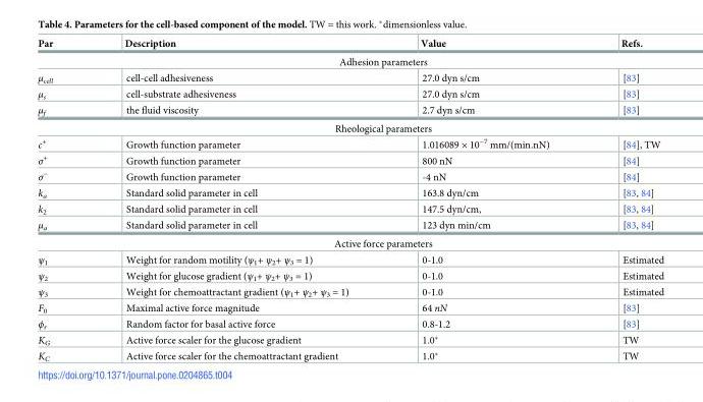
<table><thead><tr><td>Par</td><td>Description</td><td>Value</td><td>Refs.</td></tr></thead><tbody><tr><td colspan="4">Adhesion parameters</td></tr><tr><td>μ<sub>cell</sub></td><td>cell-cell adhesiveness</td><td>27.0 dyn s/cm</td><td>[83]</td></tr><tr><td>μ<sub>s</sub></td><td>cell-substrate adhesiveness</td><td>27.0 dyn s/cm</td><td>[83]</td></tr><tr><td>μ<sub>f</sub></td><td>the fluid viscosity</td><td>2.7 dyn s/cm</td><td>[83]</td></tr><tr><td colspan="4">Rheological parameters</td></tr><tr><td>c<sup>+</sup></td><td>Growth function parameter</td><td>1.016089 × 10<sup>−7</sup> mm/(min.nN)</td><td>[84], TW</td></tr><tr><td>σ<sup>+</sup></td><td>Growth function parameter</td><td>800 nN</td><td>[84]</td></tr><tr><td>σ<sup>−</sup></td><td>Growth function parameter</td><td>-4 nN</td><td>[84]</td></tr><tr><td>k<sub>a</sub></td><td>Standard solid parameter in cell</td><td>163.8 dyn/cm</td><td>[83, 84]</td></tr><tr><td>k<sub>2</sub></td><td>Standard solid parameter in cell</td><td>147.5 dyn/cm,</td><td>[83, 84]</td></tr><tr><td>μ<sub>a</sub></td><td>Standard solid parameter in cell</td><td>123 dyn min/cm</td><td>[83, 84]</td></tr><tr><td colspan="4">Active force parameters</td></tr><tr><td>ψ<sub>1</sub></td><td>Weight for random motility (ψ<sub>1</sub>+ ψ<sub>2</sub>+ ψ<sub>3</sub> = 1)</td><td>0-1.0</td><td>Estimated</td></tr><tr><td>ψ<sub>2</sub></td><td>Weight for glucose gradient (ψ<sub>1</sub>+ ψ<sub>2</sub>+ ψ<sub>3</sub> = 1)</td><td>0-1.0</td><td>Estimated</td></tr><tr><td>ψ<sub>3</sub></td><td>Weight for chemoattractant gradient (ψ<sub>1</sub>+ ψ<sub>2</sub>+ ψ<sub>3</sub> = 1)</td><td>0-1.0</td><td>Estimated</td></tr><tr><td>F<sub>0</sub></td><td>Maximal active force magnitude</td><td>64 nN</td><td>[83]</td></tr><tr><td>ϕ<sub>r</sub></td><td>Random factor for basal active force</td><td>0.8-1.2</td><td>[83]</td></tr><tr><td>K<sub>G</sub></td><td>Active force scaler for the glucose gradient</td><td>1.0*</td><td>TW</td></tr><tr><td>K<sub>C</sub></td><td>Active force scaler for the chemoattractant gradient</td><td>1.0*</td><td>TW</td></tr></tbody></table>